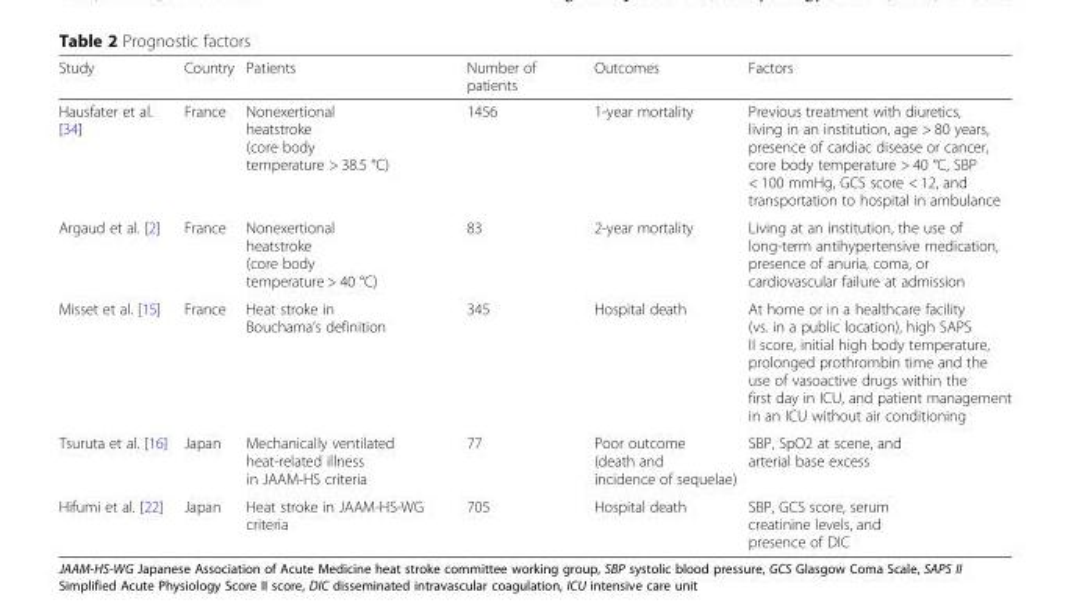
<table><thead><tr><td>Study</td><td>Country</td><td>Patients</td><td>Number of patients</td><td>Outcomes</td><td>Factors</td></tr></thead><tbody><tr><td>Hausfater et al. [34]</td><td>France</td><td>Nonexertional heatstroke (core body temperature &gt; 38.5 °C)</td><td>1456</td><td>1-year mortality</td><td>Previous treatment with diuretics, living in an institution, age &gt; 80 years, presence of cardiac disease or cancer, core body temperature &gt; 40 °C, SBP &lt; 100 mmHg, GCS score &lt; 12, and transportation to hospital in ambulance</td></tr><tr><td>Argaud et al. [2]</td><td>France</td><td>Nonexertional heatstroke (core body temperature &gt; 40 °C)</td><td>83</td><td>2-year mortality</td><td>Living at an institution, the use of long-term antihypertensive medication, presence of anuria, coma, or cardiovascular failure at admission</td></tr><tr><td>Misset et al. [15]</td><td>France</td><td>Heat stroke in Bouchama’s definition</td><td>345</td><td>Hospital death</td><td>At home or in a healthcare facility (vs. in a public location), high SAPS II score, initial high body temperature, prolonged prothrombin time and the use of vasoactive drugs within the first day in ICU, and patient management in an ICU without air conditioning</td></tr><tr><td>Tsuruta et al. [16]</td><td>Japan</td><td>Mechanically ventilated heat-related illness in JAAM-HS criteria</td><td>77</td><td>Poor outcome (death and incidence of sequelae)</td><td>SBP, SpO2 at scene, and arterial base excess</td></tr><tr><td>Hifumi et al. [22]</td><td>Japan</td><td>Heat stroke in JAAM-HS-WG criteria</td><td>705</td><td>Hospital death</td><td>SBP, GCS score, serum creatinine levels, and presence of DIC</td></tr></tbody></table>